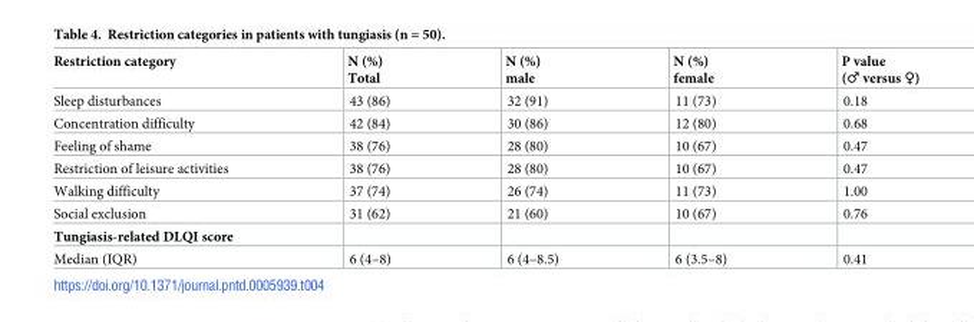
<table><thead><tr><td>Restriction category</td><td>N (%) Total</td><td>N (%) male</td><td>N (%) female</td><td>P value (♂ versus ♀)</td></tr></thead><tbody><tr><td>Sleep disturbances</td><td>43 (86)</td><td>32 (91)</td><td>11 (73)</td><td>0.18</td></tr><tr><td>Concentration difficulty</td><td>42 (84)</td><td>30 (86)</td><td>12 (80)</td><td>0.68</td></tr><tr><td>Feeling of shame</td><td>38 (76)</td><td>28 (80)</td><td>10 (67)</td><td>0.47</td></tr><tr><td>Restriction of leisure activities</td><td>38 (76)</td><td>28 (80)</td><td>10 (67)</td><td>0.47</td></tr><tr><td>Walking difficulty</td><td>37 (74)</td><td>26 (74)</td><td>11 (73)</td><td>1.00</td></tr><tr><td>Social exclusion</td><td>31 (62)</td><td>21 (60)</td><td>10 (67)</td><td>0.76</td></tr><tr><td colspan="5">Tungiasis-related DLQI score</td></tr><tr><td>Median (IQR)</td><td>6 (4–8)</td><td>6 (4–8.5)</td><td>6 (3.5–8)</td><td>0.41</td></tr></tbody></table>